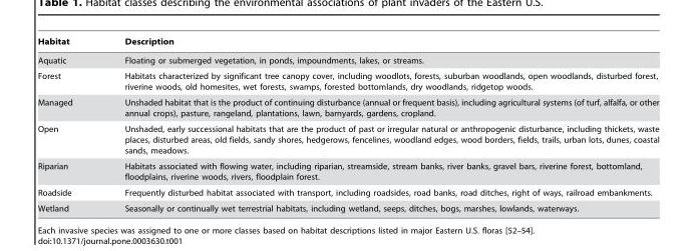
<table><thead><tr><td>Habitat</td><td>Description</td></tr></thead><tbody><tr><td>Aquatic</td><td>Floating or submerged vegetation, in ponds, impoundments, lakes, or streams.</td></tr><tr><td>Forest</td><td>Habitats characterized by significant tree canopy cover, including woodlots, forests, suburban woodlands, open woodlands, disturbed forest, riverine woods, old homesites, wet forests, swamps, forested bottomlands, dry woodlands, ridgetop woods.</td></tr><tr><td>Managed</td><td>Unshaded habitat that is the product of continuing disturbance (annual or frequent basis), including agricultural systems (of turf, alfalfa, or other annual crops), pasture, rangeland, plantations, lawn, barnyards, gardens, cropland.</td></tr><tr><td>Open</td><td>Unshaded, early successional habitats that are the product of past or irregular natural or anthropogenic disturbance, including thickets, waste places, disturbed areas, old fields, sandy shores, hedgerows, fencelines, woodland edges, wood borders, fields, trails, urban lots, dunes, coastal sands, meadows.</td></tr><tr><td>Riparian</td><td>Habitats associated with flowing water, including riparian, streamside, stream banks, river banks, gravel bars, riverine forest, bottomland, floodplains, riverine woods, rivers, floodplain forest.</td></tr><tr><td>Roadside</td><td>Frequently disturbed habitat associated with transport, including roadsides, road banks, road ditches, right of ways, railroad embankments.</td></tr><tr><td>Wetland</td><td>Seasonally or continually wet terrestrial habitats, including wetland, seeps, ditches, bogs, marshes, lowlands, waterways.</td></tr></tbody></table>